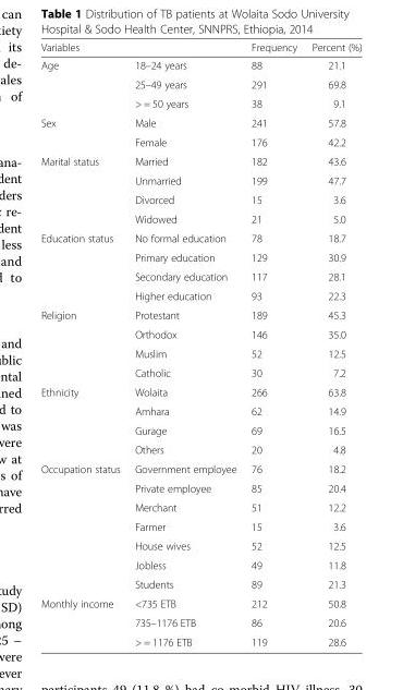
<table><thead><tr><td colspan="2">Variables</td><td rowspan="2">Frequency 88</td><td rowspan="2">Percent (%) 21.1</td></tr><tr><td>Age</td><td>18–24 years</td></tr></thead><tbody><tr><td></td><td>25–49 years</td><td>291</td><td>69.8</td></tr><tr><td></td><td>&gt; = 50 years</td><td>38</td><td>9.1</td></tr><tr><td rowspan="2">Sex</td><td>Male</td><td>241</td><td>57.8</td></tr><tr><td>Female</td><td>176</td><td>42.2</td></tr><tr><td rowspan="4">Marital status</td><td>Married</td><td>182</td><td>43.6</td></tr><tr><td>Unmarried</td><td>199</td><td>47.7</td></tr><tr><td>Divorced</td><td>15</td><td>3.6</td></tr><tr><td>Widowed</td><td>21</td><td>5.0</td></tr><tr><td rowspan="4">Education status</td><td>No formal education</td><td>78</td><td>18.7</td></tr><tr><td>Primary education</td><td>129</td><td>30.9</td></tr><tr><td>Secondary education</td><td>117</td><td>28.1</td></tr><tr><td>Higher education</td><td>93</td><td>22.3</td></tr><tr><td rowspan="4">Religion</td><td>Protestant</td><td>189</td><td>45.3</td></tr><tr><td>Orthodox</td><td>146</td><td>35.0</td></tr><tr><td>Muslim</td><td>52</td><td>12.5</td></tr><tr><td>Catholic</td><td>30</td><td>7.2</td></tr><tr><td rowspan="4">Ethnicity</td><td>Wolaita</td><td>266</td><td>63.8</td></tr><tr><td>Amhara</td><td>62</td><td>14.9</td></tr><tr><td>Gurage</td><td>69</td><td>16.5</td></tr><tr><td>Others</td><td>20</td><td>4.8</td></tr><tr><td rowspan="7">Occupation status</td><td>Government employee</td><td>76</td><td>18.2</td></tr><tr><td>Private employee</td><td>85</td><td>20.4</td></tr><tr><td>Merchant</td><td>51</td><td>12.2</td></tr><tr><td>Farmer</td><td>15</td><td>3.6</td></tr><tr><td>House wives</td><td>52</td><td>12.5</td></tr><tr><td>Jobless</td><td>49</td><td>11.8</td></tr><tr><td>Students</td><td>89</td><td>21.3</td></tr><tr><td rowspan="3">Monthly income</td><td>&lt;735 ETB</td><td>212</td><td>50.8</td></tr><tr><td>735–1176 ETB</td><td>86</td><td>20.6</td></tr><tr><td>&gt; = 1176 ETB</td><td>119</td><td>28.6</td></tr></tbody></table>